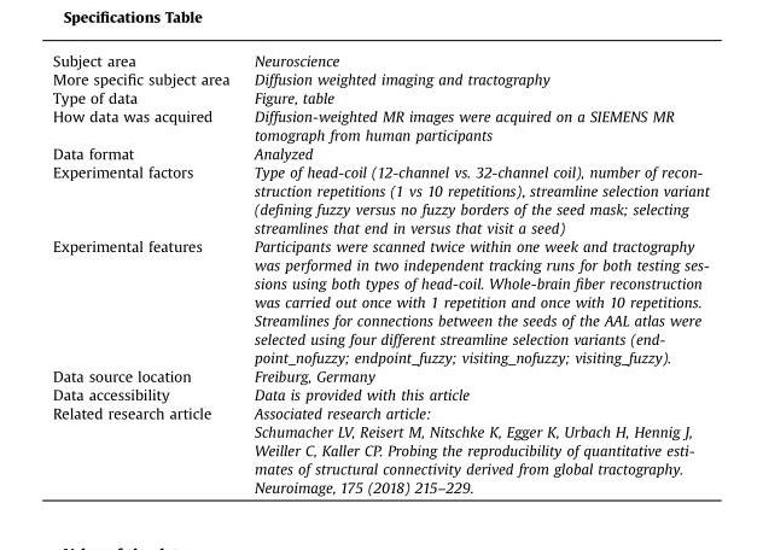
<table><tbody><tr><td>Subject area</td><td>Neuroscience</td></tr><tr><td>More specific subject area</td><td>Diffusion weighted imaging and tractography</td></tr><tr><td>Type of data</td><td>Figure, table</td></tr><tr><td>How data was acquired</td><td>Diffusion-weighted MR images were acquired on a SIEMENS MR tomograph from human participants</td></tr><tr><td>Data format</td><td>Analyzed</td></tr><tr><td>Experimental factors</td><td>Type of head-coil (12-channel vs. 32-channel coil), number of recon- struction repetitions (1 vs 10 repetitions), streamline selection variant (defining fuzzy versus no fuzzy borders of the seed mask; selecting streamlines that end in versus that visit a seed)</td></tr><tr><td>Experimental features</td><td>Participants were scanned twice within one week and tractography was performed in two independent tracking runs for both testing ses- sions using both types of head-coil. Whole-brain fiber reconstruction was carried out once with 1 repetition and once with 10 repetitions. Streamlines for connections between the seeds of the AAL atlas were selected using four different streamline selection variants (end- point_nofuzzy; endpoint_fuzzy; visiting_nofuzzy; visiting_fuzzy).</td></tr><tr><td>Data source location</td><td>Freiburg, Germany</td></tr><tr><td>Data accessibility</td><td>Data is provided with this article</td></tr><tr><td rowspan="2">Related research article</td><td>Associated research article:</td></tr><tr><td>Schumacher LV, Reisert M, Nitschke K, Egger K, Urbach H, Hennig J, Weiller C, Kaller CP. Probing the reproducibility of quantitative esti- mates of structural connectivity derived from global tractography. Neuroimage, 175 (2018) 215–229.</td></tr></tbody></table>